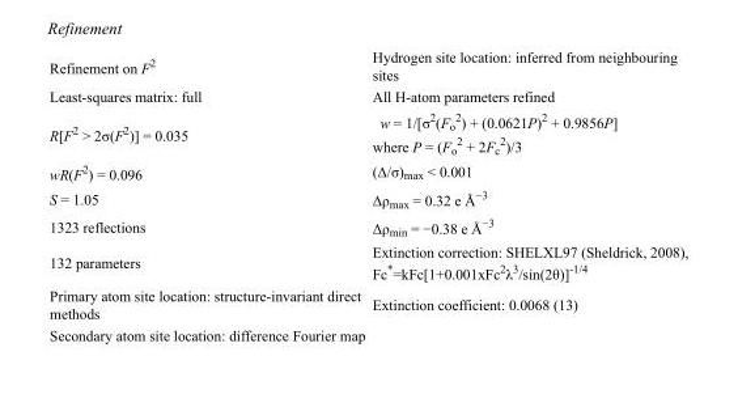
<table><tbody><tr><td>Refinement on F<sup>2</sup></td><td>Hydrogen site location: inferred from neighbouring sites</td></tr><tr><td>Least-squares matrix: full</td><td>All H-atom parameters refined</td></tr><tr><td>R[F<sup>2</sup> &gt; 2σ(F<sup>2</sup>)] = 0.035</td><td>w = 1/[σ<sup>2</sup>(F<sub>o</sub> <sup>2</sup>) + (0.0621P)<sup>2</sup> + 0.9856P] where P = (F<sub>o</sub> <sup>2</sup> + 2F<sub>c</sub> <sup>2</sup>)/3</td></tr><tr><td>wR(F<sup>2</sup>) = 0.096</td><td>(Δ/σ)<sub>max</sub> &lt; 0.001</td></tr><tr><td>S = 1.05</td><td>Δρ<sub>max</sub> = 0.32 e Å<sup>−3</sup></td></tr><tr><td>1323 reflections</td><td>Δρ<sub>min</sub> = −0.38 e Å<sup>−3</sup></td></tr><tr><td>132 parameters</td><td>Extinction correction: SHELXL97 (Sheldrick, 2008), Fc*=kFc[1+0.001xFc<sup>2</sup>λ<sup>3</sup>/sin(2θ)]<sup>-1/4</sup></td></tr><tr><td>Primary atom site location: structure-invariant direct methods</td><td>Extinction coefficient: 0.0068 (13)</td></tr><tr><td>Secondary atom site location: difference Fourier map</td><td></td></tr></tbody></table>